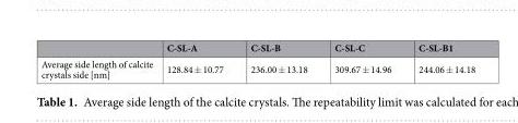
<table><thead><tr><td></td><td>C-SL-A</td><td>C-SL-B</td><td>C-SL-C</td><td>C-SL-B1</td></tr></thead><tbody><tr><td>Average side length of calcite crystals side [nm]</td><td>128.84 ± 10.77</td><td>236.00 ± 13.18</td><td>309.67 ± 14.96</td><td>244.06 ± 14.18</td></tr></tbody></table>